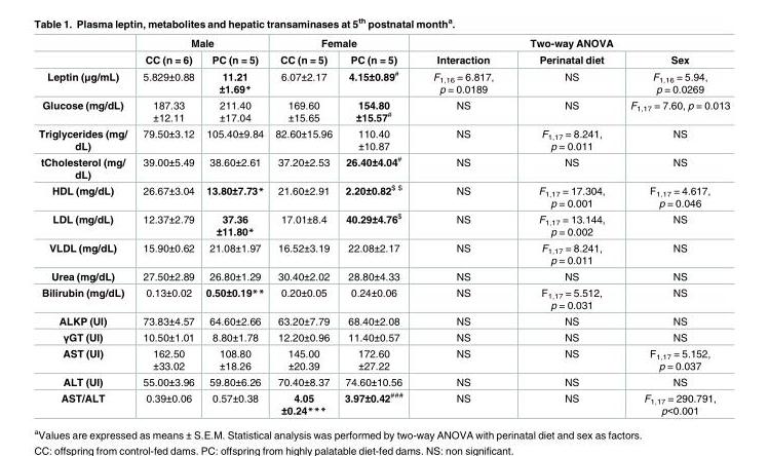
<table><thead><tr><td rowspan="2"></td><td colspan="2">Male</td><td colspan="2">Female</td><td colspan="3">Two-way ANOVA</td></tr><tr><td>CC (n = 6)</td><td>PC (n = 5)</td><td>CC (n = 5)</td><td>PC (n = 5)</td><td>Interaction</td><td>Perinatal diet</td><td>Sex</td></tr></thead><tbody><tr><td>Leptin (μg/mL)</td><td>5.829±0.88</td><td>11.21 ±1.69*</td><td>6.07±2.17</td><td>4.15±0.89<sup>#</sup></td><td>F<sub>1,16</sub> = 6.817, p = 0.0189</td><td>NS</td><td>F<sub>1,16</sub> = 5.94, p = 0.0269</td></tr><tr><td>Glucose (mg/dL)</td><td>187.33 ±12.11</td><td>211.40 ±17.04</td><td>169.60 ±15.65</td><td>154.80 ±15.57<sup>#</sup></td><td>NS</td><td>NS</td><td>F<sub>1,17</sub> = 7.60, p = 0.013</td></tr><tr><td>Triglycerides (mg/ dL)</td><td>79.50±3.12</td><td>105.40±9.84</td><td>82.60±15.96</td><td>110.40 ±10.87</td><td>NS</td><td>F<sub>1,17</sub> = 8.241, p = 0.011</td><td>NS</td></tr><tr><td>tCholesterol (mg/ dL)</td><td>39.00±5.49</td><td>38.60±2.61</td><td>37.20±2.53</td><td>26.40±4.04<sup>#</sup></td><td>NS</td><td>NS</td><td>NS</td></tr><tr><td>HDL (mg/dL)</td><td>26.67±3.04</td><td>13.80±7.73*</td><td>21.60±2.91</td><td>2.20±0.82<sup>$ $</sup></td><td>NS</td><td>F<sub>1,17</sub> = 17.304, p = 0.001</td><td>F<sub>1,17</sub> = 4.617, p = 0.046</td></tr><tr><td>LDL (mg/dL)</td><td>12.37±2.79</td><td>37.36 ±11.80*</td><td>17.01±8.4</td><td>40.29±4.76<sup>$</sup></td><td>NS</td><td>F<sub>1,17</sub> = 13.144, p = 0.002</td><td>NS</td></tr><tr><td>VLDL (mg/dL)</td><td>15.90±0.62</td><td>21.08±1.97</td><td>16.52±3.19</td><td>22.08±2.17</td><td>NS</td><td>F<sub>1,17</sub> = 8.241, p = 0.011</td><td>NS</td></tr><tr><td>Urea (mg/dL)</td><td>27.50±2.89</td><td>26.80±1.29</td><td>30.40±2.02</td><td>28.80±4.33</td><td>NS</td><td>NS</td><td>NS</td></tr><tr><td>Bilirubin (mg/dL)</td><td>0.13±0.02</td><td>0.50±0.19**</td><td>0.20±0.05</td><td>0.24±0.06</td><td>NS</td><td>F<sub>1,17</sub> = 5.512, p = 0.031</td><td>NS</td></tr><tr><td>ALKP (UI)</td><td>73.83±4.57</td><td>64.60±2.66</td><td>63.20±7.79</td><td>68.40±2.08</td><td>NS</td><td>NS</td><td>NS</td></tr><tr><td>γGT (UI)</td><td>10.50±1.01</td><td>8.80±1.78</td><td>12.20±0.96</td><td>11.40±0.57</td><td>NS</td><td>NS</td><td>NS</td></tr><tr><td>AST (UI)</td><td>162.50 ±33.02</td><td>108.80 ±18.26</td><td>145.00 ±20.39</td><td>172.60 ±27.22</td><td>NS</td><td>NS</td><td>F<sub>1,17</sub> = 5.152, p = 0.037</td></tr><tr><td>ALT (UI)</td><td>55.00±3.96</td><td>59.80±6.26</td><td>70.40±8.37</td><td>74.60±10.56</td><td>NS</td><td>NS</td><td>NS</td></tr><tr><td>AST/ALT</td><td>0.39±0.06</td><td>0.57±0.38</td><td>4.05 ±0.24***</td><td>3.97±0.42<sup>###</sup></td><td>NS</td><td>NS</td><td>F<sub>1,17</sub> = 290.791, p&lt;0.001</td></tr></tbody></table>